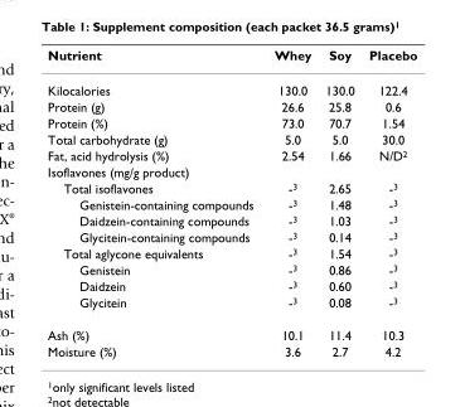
<table><thead><tr><td>Nutrient</td><td>Whey</td><td>Soy</td><td>Placebo</td></tr></thead><tbody><tr><td>Kilocalories</td><td>130.0</td><td>130.0</td><td>122.4</td></tr><tr><td>Protein (g)</td><td>26.6</td><td>25.8</td><td>0.6</td></tr><tr><td>Protein (%)</td><td>73.0</td><td>70.7</td><td>1.54</td></tr><tr><td>Total carbohydrate (g)</td><td>5.0</td><td>5.0</td><td>30.0</td></tr><tr><td>Fat, acid hydrolysis (%)</td><td>2.54</td><td>1.66</td><td>N/D<sup>2</sup></td></tr><tr><td colspan="4">Isoflavones (mg/g product)</td></tr><tr><td>Total isoflavones</td><td>-<sup>3</sup></td><td>2.65</td><td>-<sup>3</sup></td></tr><tr><td>Genistein-containing compounds</td><td>-<sup>3</sup></td><td>1.48</td><td>-<sup>3</sup></td></tr><tr><td>Daidzein-containing compounds</td><td>-<sup>3</sup></td><td>1.03</td><td>-<sup>3</sup></td></tr><tr><td>Glycitein-containing compounds</td><td>-<sup>3</sup></td><td>0.14</td><td>-<sup>3</sup></td></tr><tr><td>Total aglycone equivalents</td><td>-<sup>3</sup></td><td>1.54</td><td>-<sup>3</sup></td></tr><tr><td>Genistein</td><td>-<sup>3</sup></td><td>0.86</td><td>-<sup>3</sup></td></tr><tr><td>Daidzein</td><td>-<sup>3</sup></td><td>0.60</td><td>-<sup>3</sup></td></tr><tr><td>Glycitein</td><td>-<sup>3</sup></td><td>0.08</td><td>-<sup>3</sup></td></tr><tr><td>Ash (%)</td><td>10.1</td><td>11.4</td><td>10.3</td></tr><tr><td>Moisture (%)</td><td>3.6</td><td>2.7</td><td>4.2</td></tr></tbody></table>